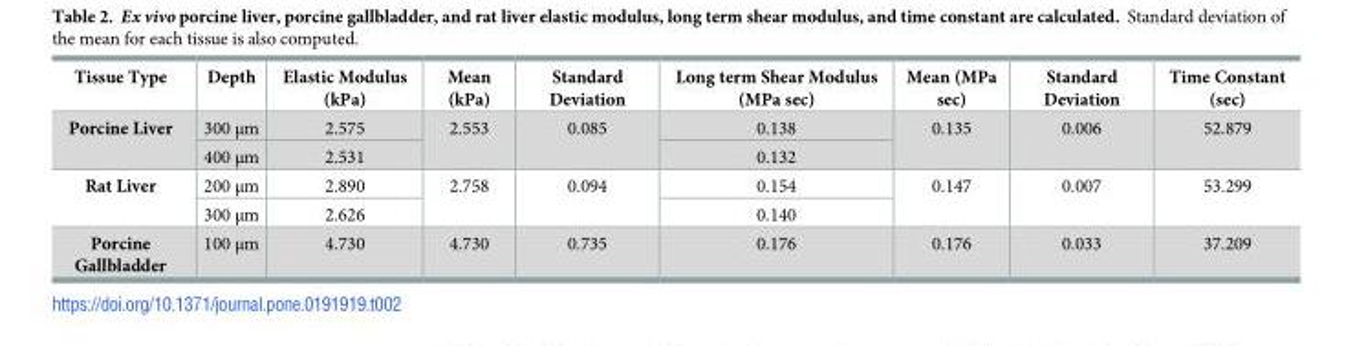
<table><thead><tr><td>Tissue Type</td><td>Depth</td><td>Elastic Modulus (kPa)</td><td>Mean (kPa)</td><td>Standard Deviation</td><td>Long term Shear Modulus (MPa sec)</td><td>Mean (MPa sec)</td><td>Standard Deviation</td><td>Time Constant (sec)</td></tr></thead><tbody><tr><td rowspan="2">Porcine Liver</td><td>300 μm</td><td>2.575</td><td rowspan="2">2.553</td><td rowspan="2">0.085</td><td>0.138</td><td rowspan="2">0.135</td><td rowspan="2">0.006</td><td rowspan="2">52.879</td></tr><tr><td>400 μm</td><td>2.531</td><td>0.132</td></tr><tr><td rowspan="2">Rat Liver</td><td>200 μm</td><td>2.890</td><td rowspan="2">2.758</td><td rowspan="2">0.094</td><td>0.154</td><td rowspan="2">0.147</td><td rowspan="2">0.007</td><td rowspan="2">53.299</td></tr><tr><td>300 μm</td><td>2.626</td><td>0.140</td></tr><tr><td>Porcine Gallbladder</td><td>100 μm</td><td>4.730</td><td>4.730</td><td>0.735</td><td>0.176</td><td>0.176</td><td>0.033</td><td>37.209</td></tr></tbody></table>